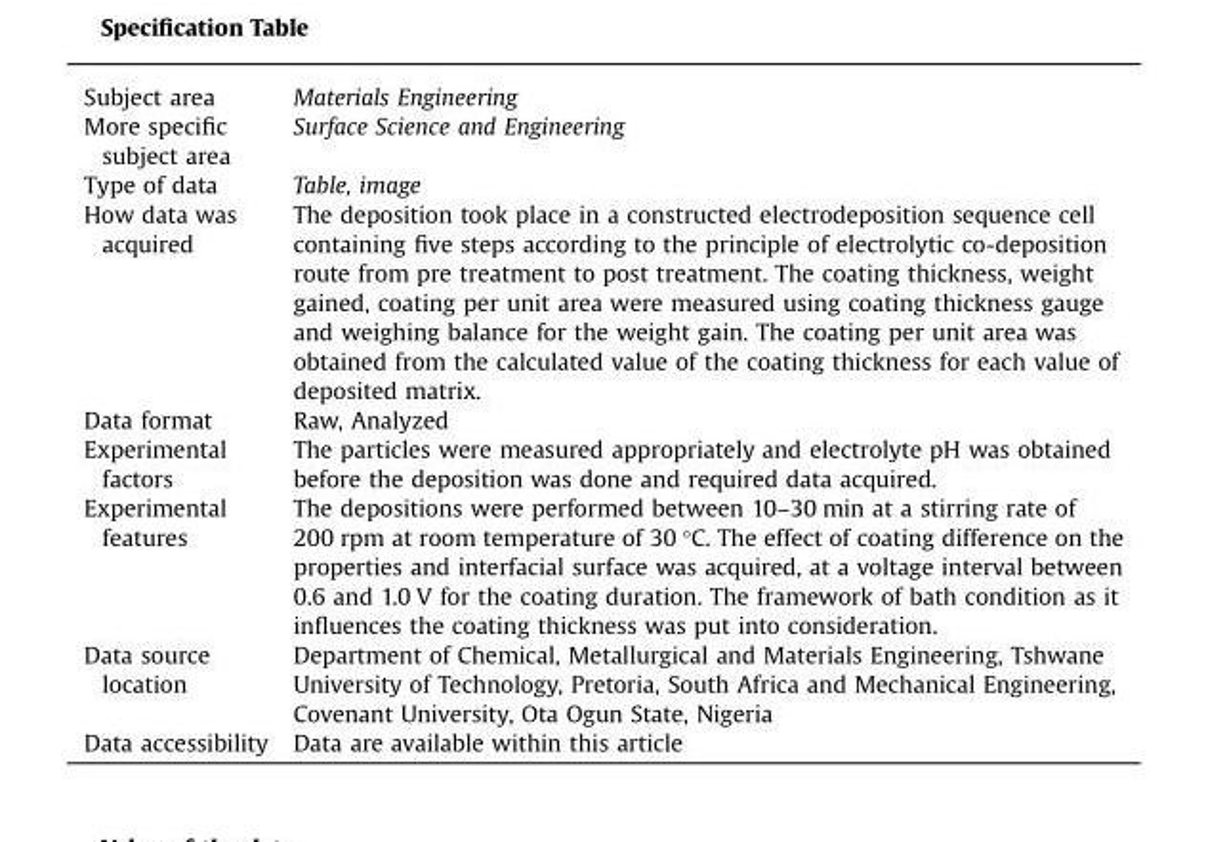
<table><tbody><tr><td>Subject area</td><td>Materials Engineering</td></tr><tr><td>More specific subject area</td><td>Surface Science and Engineering</td></tr><tr><td>Type of data</td><td>Table, image</td></tr><tr><td>How data was acquired</td><td>The deposition took place in a constructed electrodeposition sequence cell containing five steps according to the principle of electrolytic co-deposition route from pre treatment to post treatment. The coating thickness, weight gained, coating per unit area were measured using coating thickness gauge and weighing balance for the weight gain. The coating per unit area was obtained from the calculated value of the coating thickness for each value of deposited matrix.</td></tr><tr><td>Data format</td><td>Raw, Analyzed</td></tr><tr><td>Experimental factors</td><td>The particles were measured appropriately and electrolyte pH was obtained before the deposition was done and required data acquired.</td></tr><tr><td>Experimental features</td><td>The depositions were performed between 10–30 min at a stirring rate of 200 rpm at room temperature of 30 °C. The effect of coating difference on the properties and interfacial surface was acquired, at a voltage interval between 0.6 and 1.0 V for the coating duration. The framework of bath condition as it influences the coating thickness was put into consideration.</td></tr><tr><td>Data source location</td><td>Department of Chemical, Metallurgical and Materials Engineering, Tshwane University of Technology, Pretoria, South Africa and Mechanical Engineering, Covenant University, Ota Ogun State, Nigeria</td></tr><tr><td>Data accessibility</td><td>Data are available within this article</td></tr></tbody></table>